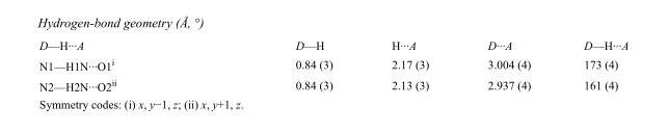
<table><tbody><tr><td>D—H···A</td><td>D—H</td><td>H···A</td><td>D···A</td><td>D—H···A</td></tr><tr><td>N1—H1N···O1<sup>i</sup></td><td>0.84 (3)</td><td>2.17 (3)</td><td>3.004 (4)</td><td>173 (4)</td></tr><tr><td>N2—H2N···O2<sup>ii</sup></td><td>0.84 (3)</td><td>2.13 (3)</td><td>2.937 (4)</td><td>161 (4)</td></tr></tbody></table>